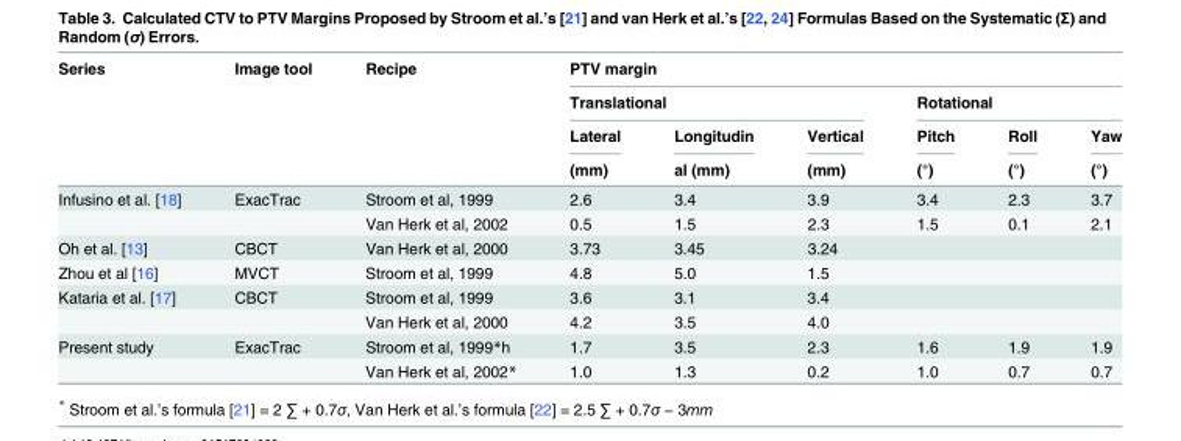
<table><thead><tr><td rowspan="4">Series</td><td rowspan="4">Image tool</td><td rowspan="4">Recipe</td><td colspan="6">PTV margin</td></tr><tr><td colspan="3">Translational</td><td colspan="3">Rotational</td></tr><tr><td rowspan="2">Lateral (mm)</td><td rowspan="2">Longitudin al (mm)</td><td rowspan="2">Vertical (mm)</td><td rowspan="2">Pitch (°)</td><td rowspan="2">Roll (°)</td><td rowspan="2">Yaw (°)</td></tr><tr></tr></thead><tbody><tr><td rowspan="2">Infusino et al. [18]</td><td>ExacTrac</td><td>Stroom et al, 1999</td><td>2.6</td><td>3.4</td><td>3.9</td><td>3.4</td><td>2.3</td><td>3.7</td></tr><tr><td></td><td>Van Herk et al, 2002</td><td>0.5</td><td>1.5</td><td>2.3</td><td>1.5</td><td>0.1</td><td>2.1</td></tr><tr><td>Oh et al. [13]</td><td>CBCT</td><td>Van Herk et al, 2000</td><td>3.73</td><td>3.45</td><td>3.24</td><td></td><td></td><td></td></tr><tr><td>Zhou et al [16]</td><td>MVCT</td><td>Stroom et al, 1999</td><td>4.8</td><td>5.0</td><td>1.5</td><td></td><td></td><td></td></tr><tr><td rowspan="2">Kataria et al. [17]</td><td>CBCT</td><td>Stroom et al, 1999</td><td>3.6</td><td>3.1</td><td>3.4</td><td></td><td></td><td></td></tr><tr><td></td><td>Van Herk et al, 2000</td><td>4.2</td><td>3.5</td><td>4.0</td><td></td><td></td><td></td></tr><tr><td rowspan="2">Present study</td><td>ExacTrac</td><td>Stroom et al, 1999*<sup>h</sup></td><td>1.7</td><td>3.5</td><td>2.3</td><td>1.6</td><td>1.9</td><td>1.9</td></tr><tr><td></td><td>Van Herk et al, 2002*</td><td>1.0</td><td>1.3</td><td>0.2</td><td>1.0</td><td>0.7</td><td>0.7</td></tr></tbody></table>